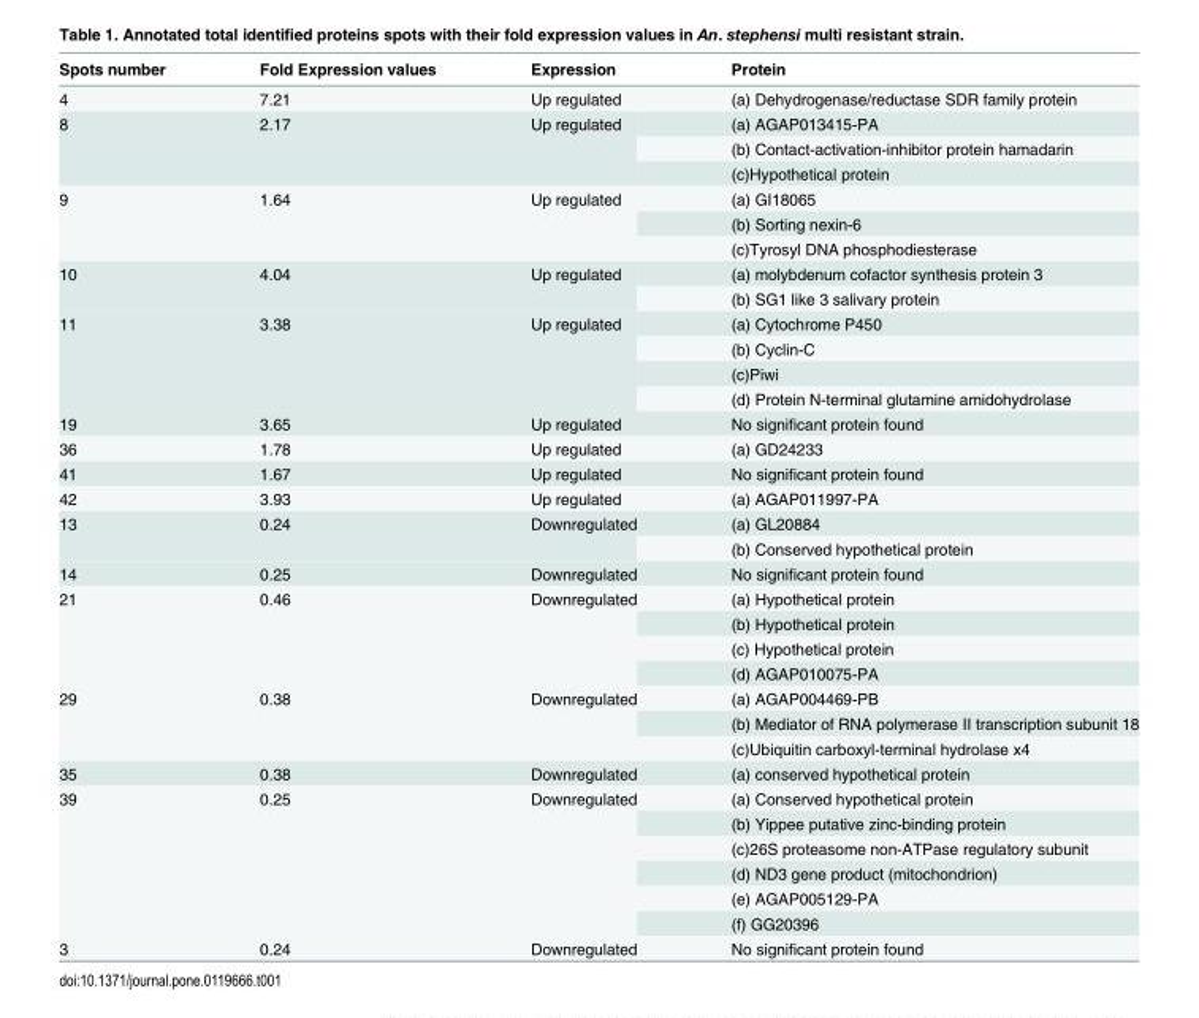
<table><thead><tr><td>Spots number</td><td>Fold Expression values</td><td>Expression</td><td>Protein</td></tr></thead><tbody><tr><td>4</td><td>7.21</td><td>Up regulated</td><td>(a) Dehydrogenase/reductase SDR family protein</td></tr><tr><td rowspan="3">8</td><td rowspan="3">2.17</td><td rowspan="3">Up regulated</td><td>(a) AGAP013415-PA</td></tr><tr><td>(b) Contact-activation-inhibitor protein hamadarin</td></tr><tr><td>(c)Hypothetical protein</td></tr><tr><td rowspan="3">9</td><td rowspan="3">1.64</td><td rowspan="3">Up regulated</td><td>(a) GI18065</td></tr><tr><td>(b) Sorting nexin-6</td></tr><tr><td>(c)Tyrosyl DNA phosphodiesterase</td></tr><tr><td rowspan="2">10</td><td rowspan="2">4.04</td><td rowspan="2">Up regulated</td><td>(a) molybdenum cofactor synthesis protein 3</td></tr><tr><td>(b) SG1 like 3 salivary protein</td></tr><tr><td rowspan="4">11</td><td rowspan="4">3.38</td><td rowspan="4">Up regulated</td><td>(a) Cytochrome P450</td></tr><tr><td>(b) Cyclin-C</td></tr><tr><td>(c)Piwi</td></tr><tr><td>(d) Protein N-terminal glutamine amidohydrolase</td></tr><tr><td>19</td><td>3.65</td><td>Up regulated</td><td>No significant protein found</td></tr><tr><td>36</td><td>1.78</td><td>Up regulated</td><td>(a) GD24233</td></tr><tr><td>41</td><td>1.67</td><td>Up regulated</td><td>No significant protein found</td></tr><tr><td>42</td><td>3.93</td><td>Up regulated</td><td>(a) AGAP011997-PA</td></tr><tr><td rowspan="2">13</td><td rowspan="2">0.24</td><td rowspan="2">Downregulated</td><td>(a) GL20884</td></tr><tr><td>(b) Conserved hypothetical protein</td></tr><tr><td>14</td><td>0.25</td><td>Downregulated</td><td>No significant protein found</td></tr><tr><td rowspan="4">21</td><td rowspan="4">0.46</td><td rowspan="4">Downregulated</td><td>(a) Hypothetical protein</td></tr><tr><td>(b) Hypothetical protein</td></tr><tr><td>(c) Hypothetical protein</td></tr><tr><td>(d) AGAP010075-PA</td></tr><tr><td rowspan="3">29</td><td rowspan="3">0.38</td><td rowspan="3">Downregulated</td><td>(a) AGAP004469-PB</td></tr><tr><td>(b) Mediator of RNA polymerase II transcription subunit 18</td></tr><tr><td>(c)Ubiquitin carboxyl-terminal hydrolase x4</td></tr><tr><td>35</td><td>0.38</td><td>Downregulated</td><td>(a) conserved hypothetical protein</td></tr><tr><td rowspan="6">39</td><td rowspan="6">0.25</td><td rowspan="6">Downregulated</td><td>(a) Conserved hypothetical protein</td></tr><tr><td>(b) Yippee putative zinc-binding protein</td></tr><tr><td>(c)26S proteasome non-ATPase regulatory subunit</td></tr><tr><td>(d) ND3 gene product (mitochondrion)</td></tr><tr><td>(e) AGAP005129-PA</td></tr><tr><td>(f) GG20396</td></tr><tr><td>3</td><td>0.24</td><td>Downregulated</td><td>No significant protein found</td></tr></tbody></table>